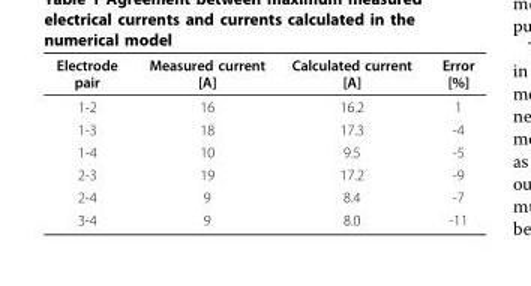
<table><thead><tr><td>Electrode pair</td><td>Measured current [A]</td><td>Calculated current [A]</td><td>Error [%]</td></tr></thead><tbody><tr><td>1-2</td><td>16</td><td>16.2</td><td>1</td></tr><tr><td>1-3</td><td>18</td><td>17.3</td><td>-4</td></tr><tr><td>1-4</td><td>10</td><td>9.5</td><td>-5</td></tr><tr><td>2-3</td><td>19</td><td>17.2</td><td>-9</td></tr><tr><td>2-4</td><td>9</td><td>8.4</td><td>-7</td></tr><tr><td>3-4</td><td>9</td><td>8.0</td><td>-11</td></tr></tbody></table>